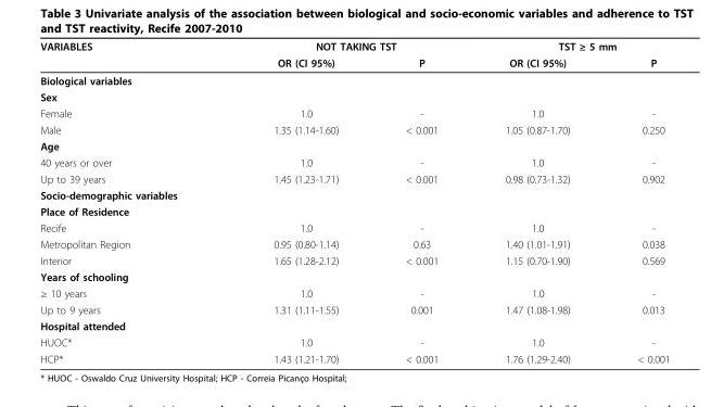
<table><thead><tr><td rowspan="2">VARIABLES</td><td colspan="2">NOT TAKING TST</td><td colspan="2">TST ≥ 5 mm</td></tr><tr><td>OR (CI 95%)</td><td>P</td><td>OR (CI 95%)</td><td>P</td></tr></thead><tbody><tr><td colspan="5">Biological variables</td></tr><tr><td colspan="5">Sex</td></tr><tr><td>Female</td><td>1.0</td><td>-</td><td>1.0</td><td>-</td></tr><tr><td>Male</td><td>1.35 (1.14-1.60)</td><td>&lt; 0.001</td><td>1.05 (0.87-1.70)</td><td>0.250</td></tr><tr><td colspan="5">Age</td></tr><tr><td>40 years or over</td><td>1.0</td><td>-</td><td>1.0</td><td>-</td></tr><tr><td>Up to 39 years</td><td>1.45 (1.23-1.71)</td><td>&lt; 0.001</td><td>0.98 (0.73-1.32)</td><td>0.902</td></tr><tr><td colspan="5">Socio-demographic variables</td></tr><tr><td colspan="5">Place of Residence</td></tr><tr><td>Recife</td><td>1.0</td><td>-</td><td>1.0</td><td>-</td></tr><tr><td>Metropolitan Region</td><td>0.95 (0.80-1.14)</td><td>0.63</td><td>1.40 (1.01-1.91)</td><td>0.038</td></tr><tr><td>Interior</td><td>1.65 (1.28-2.12)</td><td>&lt; 0.001</td><td>1.15 (0.70-1.90)</td><td>0.569</td></tr><tr><td colspan="5">Years of schooling</td></tr><tr><td>≥ 10 years</td><td>1.0</td><td>-</td><td>1.0</td><td>-</td></tr><tr><td>Up to 9 years</td><td>1.31 (1.11-1.55)</td><td>0.001</td><td>1.47 (1.08-1.98)</td><td>0.013</td></tr><tr><td colspan="5">Hospital attended</td></tr><tr><td>HUOC*</td><td>1.0</td><td>-</td><td>1.0</td><td>-</td></tr><tr><td>HCP*</td><td>1.43 (1.21-1.70)</td><td>&lt; 0.001</td><td>1.76 (1.29-2.40)</td><td>&lt; 0.001</td></tr></tbody></table>